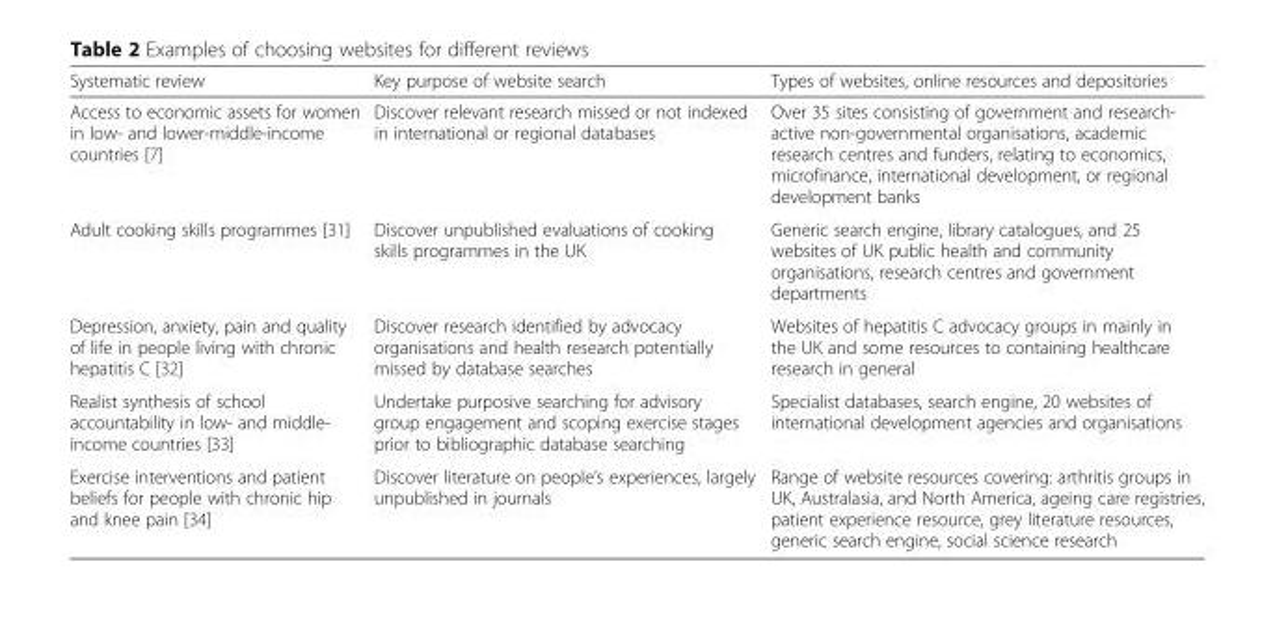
<table><thead><tr><td>Systematic review</td><td>Key purpose of website search</td><td>Types of websites, online resources and depositories</td></tr></thead><tbody><tr><td>Access to economic assets for women in low- and lower-middle-income countries [7]</td><td>Discover relevant research missed or not indexed in international or regional databases</td><td>Over 35 sites consisting of government and research- active non-governmental organisations, academic research centres and funders, relating to economics, microfinance, international development, or regional development banks</td></tr><tr><td>Adult cooking skills programmes [31]</td><td>Discover unpublished evaluations of cooking skills programmes in the UK</td><td>Generic search engine, library catalogues, and 25 websites of UK public health and community organisations, research centres and government departments</td></tr><tr><td>Depression, anxiety, pain and quality of life in people living with chronic hepatitis C [32]</td><td>Discover research identified by advocacy organisations and health research potentially missed by database searches</td><td>Websites of hepatitis C advocacy groups in mainly in the UK and some resources to containing healthcare research in general</td></tr><tr><td>Realist synthesis of school accountability in low- and middle- income countries [33]</td><td>Undertake purposive searching for advisory group engagement and scoping exercise stages prior to bibliographic database searching</td><td>Specialist databases, search engine, 20 websites of international development agencies and organisations</td></tr><tr><td>Exercise interventions and patient beliefs for people with chronic hip and knee pain [34]</td><td>Discover literature on people’s experiences, largely unpublished in journals</td><td>Range of website resources covering: arthritis groups in UK, Australasia, and North America, ageing care registries, patient experience resource, grey literature resources, generic search engine, social science research</td></tr></tbody></table>